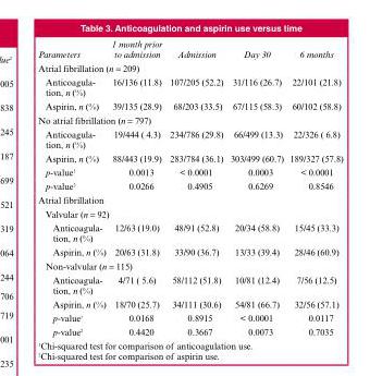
<table><thead><tr><td>Parameters</td><td>1 month prior to admission</td><td>Admission</td><td>Day 30</td><td>6 months</td></tr></thead><tbody><tr><td colspan="5">Atrial fibrillation (n = 209)</td></tr><tr><td>Anticoagula- tion, n (%)</td><td>16/136 (11.8)</td><td>107/205 (52.2)</td><td>31/116 (26.7)</td><td>22/101 (21.8)</td></tr><tr><td>Aspirin, n (%)</td><td>39/135 (28.9)</td><td>68/203 (33.5)</td><td>67/115 (58.3)</td><td>60/102 (58.8)</td></tr><tr><td colspan="5">No atrial fibrillation (n = 797)</td></tr><tr><td>Anticoagula- tion, n (%)</td><td>19/444 ( 4.3)</td><td>234/786 (29.8)</td><td>66/499 (13.3)</td><td>22/326 ( 6.8)</td></tr><tr><td>Aspirin, n (%)</td><td>88/443 (19.9)</td><td>283/784 (36.1)</td><td>303/499 (60.7)</td><td>189/327 (57.8)</td></tr><tr><td>p-value<sup>1</sup></td><td>0.0013</td><td>&lt; 0.0001</td><td>0.0003</td><td>&lt; 0.0001</td></tr><tr><td>p-value<sup>2</sup></td><td>0.0266</td><td>0.4905</td><td>0.6269</td><td>0.8546</td></tr><tr><td colspan="5">Atrial fibrillation</td></tr><tr><td colspan="5">Valvular (n = 92)</td></tr><tr><td>Anticoagula- tion, n (%)</td><td>12/63 (19.0)</td><td>48/91 (52.8)</td><td>20/34 (58.8)</td><td>15/45 (33.3)</td></tr><tr><td>Aspirin, n (%)</td><td>20/63 (31.8)</td><td>33/90 (36.7)</td><td>13/33 (39.4)</td><td>28/46 (60.9)</td></tr><tr><td colspan="5">Non-valvular (n = 115)</td></tr><tr><td>Anticoagula- tion, n (%)</td><td>4/71 ( 5.6)</td><td>58/112 (51.8)</td><td>10/81 (12.4)</td><td>7/56 (12.5)</td></tr><tr><td>Aspirin, n (%)</td><td>18/70 (25.7)</td><td>34/111 (30.6)</td><td>54/81 (66.7)</td><td>32/56 (57.1)</td></tr><tr><td>p-value<sup>1</sup></td><td>0.0168</td><td>0.8915</td><td>&lt; 0.0001</td><td>0.0117</td></tr><tr><td>p-value<sup>2</sup></td><td>0.4420</td><td>0.3667</td><td>0.0073</td><td>0.7035</td></tr></tbody></table>